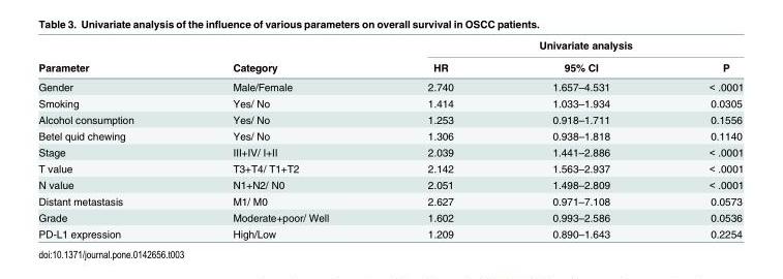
<table><thead><tr><td rowspan="2">Parameter</td><td rowspan="2">Category</td><td colspan="3">Univariate analysis</td></tr><tr><td>HR</td><td>95% CI</td><td>P</td></tr></thead><tbody><tr><td>Gender</td><td>Male/Female</td><td>2.740</td><td>1.657–4.531</td><td>&lt; .0001</td></tr><tr><td>Smoking</td><td>Yes/ No</td><td>1.414</td><td>1.033–1.934</td><td>0.0305</td></tr><tr><td>Alcohol consumption</td><td>Yes/ No</td><td>1.253</td><td>0.918–1.711</td><td>0.1556</td></tr><tr><td>Betel quid chewing</td><td>Yes/ No</td><td>1.306</td><td>0.938–1.818</td><td>0.1140</td></tr><tr><td>Stage</td><td>III+IV/ I+II</td><td>2.039</td><td>1.441–2.886</td><td>&lt; .0001</td></tr><tr><td>T value</td><td>T3+T4/ T1+T2</td><td>2.142</td><td>1.563–2.937</td><td>&lt; .0001</td></tr><tr><td>N value</td><td>N1+N2/ N0</td><td>2.051</td><td>1.498–2.809</td><td>&lt; .0001</td></tr><tr><td>Distant metastasis</td><td>M1/ M0</td><td>2.627</td><td>0.971–7.108</td><td>0.0573</td></tr><tr><td>Grade</td><td>Moderate+poor/ Well</td><td>1.602</td><td>0.993–2.586</td><td>0.0536</td></tr><tr><td>PD-L1 expression</td><td>High/Low</td><td>1.209</td><td>0.890–1.643</td><td>0.2254</td></tr></tbody></table>